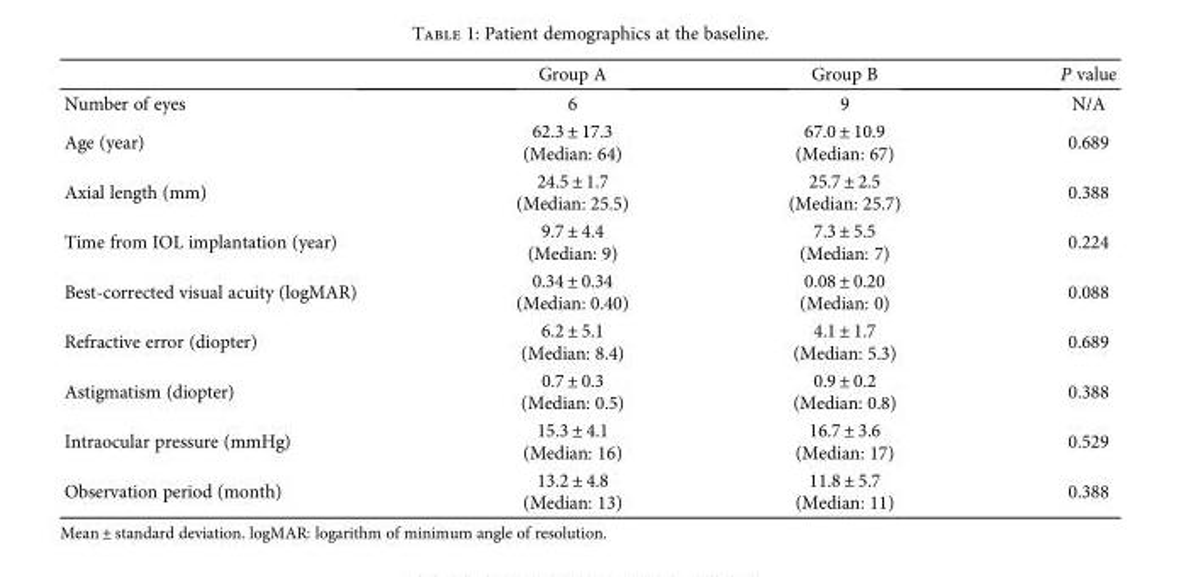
<table><thead><tr><td></td><td>Group A</td><td>Group B</td><td>P value</td></tr></thead><tbody><tr><td>Number of eyes</td><td>6</td><td>9</td><td>N/A</td></tr><tr><td>Age (year)</td><td>62.3 ± 17.3 (Median: 64)</td><td>67.0 ± 10.9 (Median: 67)</td><td>0.689</td></tr><tr><td>Axial length (mm)</td><td>24.5 ± 1.7 (Median: 25.5)</td><td>25.7 ± 2.5 (Median: 25.7)</td><td>0.388</td></tr><tr><td>Time from IOL implantation (year)</td><td>9.7 ± 4.4 (Median: 9)</td><td>7.3 ± 5.5 (Median: 7)</td><td>0.224</td></tr><tr><td>Best-corrected visual acuity (logMAR)</td><td>0.34 ± 0.34 (Median: 0.40)</td><td>0.08 ± 0.20 (Median: 0)</td><td>0.088</td></tr><tr><td>Refractive error (diopter)</td><td>6.2 ± 5.1 (Median: 8.4)</td><td>4.1 ± 1.7 (Median: 5.3)</td><td>0.689</td></tr><tr><td>Astigmatism (diopter)</td><td>0.7 ± 0.3 (Median: 0.5)</td><td>0.9 ± 0.2 (Median: 0.8)</td><td>0.388</td></tr><tr><td>Intraocular pressure (mmHg)</td><td>15.3 ± 4.1 (Median: 16)</td><td>16.7 ± 3.6 (Median: 17)</td><td>0.529</td></tr><tr><td>Observation period (month)</td><td>13.2 ± 4.8 (Median: 13)</td><td>11.8 ± 5.7 (Median: 11)</td><td>0.388</td></tr></tbody></table>